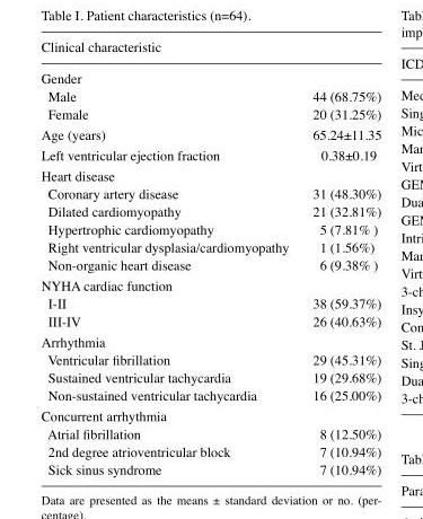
<table><thead><tr><td>Clinical characteristic</td><td></td></tr></thead><tbody><tr><td colspan="2">Gender</td></tr><tr><td>Male</td><td>44 (68.75%)</td></tr><tr><td>Female</td><td>20 (31.25%)</td></tr><tr><td>Age (years)</td><td>65.24±11.35</td></tr><tr><td>Left ventricular ejection fraction</td><td>0.38±0.19</td></tr><tr><td colspan="2">Heart disease</td></tr><tr><td>Coronary artery disease</td><td>31 (48.30%)</td></tr><tr><td>Dilated cardiomyopathy</td><td>21 (32.81%)</td></tr><tr><td>Hypertrophic cardiomyopathy</td><td>5 (7.81% )</td></tr><tr><td>Right ventricular dysplasia/cardiomyopathy</td><td>1 (1.56%)</td></tr><tr><td>Non-organic heart disease</td><td>6 (9.38% )</td></tr><tr><td colspan="2">NYHA cardiac function</td></tr><tr><td>I-II</td><td>38 (59.37%)</td></tr><tr><td>III-IV</td><td>26 (40.63%)</td></tr><tr><td colspan="2">Arrhythmia</td></tr><tr><td>Ventricular fibrillation</td><td>29 (45.31%)</td></tr><tr><td>Sustained ventricular tachycardia</td><td>19 (29.68%)</td></tr><tr><td>Non-sustained ventricular tachycardia</td><td>16 (25.00%)</td></tr><tr><td colspan="2">Concurrent arrhythmia</td></tr><tr><td>Atrial fibrillation</td><td>8 (12.50%)</td></tr><tr><td>2nd degree atrioventricular block</td><td>7 (10.94%)</td></tr><tr><td>Sick sinus syndrome</td><td>7 (10.94%)</td></tr></tbody></table>